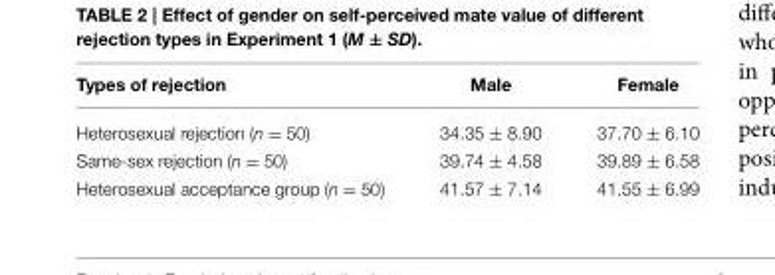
<table><thead><tr><td>Types of rejection</td><td>Male</td><td>Female</td></tr></thead><tbody><tr><td>Heterosexual rejection (n = 50)</td><td>34.35 ± 8.90</td><td>37.70 ± 6.10</td></tr><tr><td>Same-sex rejection (n = 50)</td><td>39.74 ± 4.58</td><td>39.89 ± 6.58</td></tr><tr><td>Heterosexual acceptance group (n = 50)</td><td>41.57 ± 7.14</td><td>41.55 ± 6.99</td></tr></tbody></table>